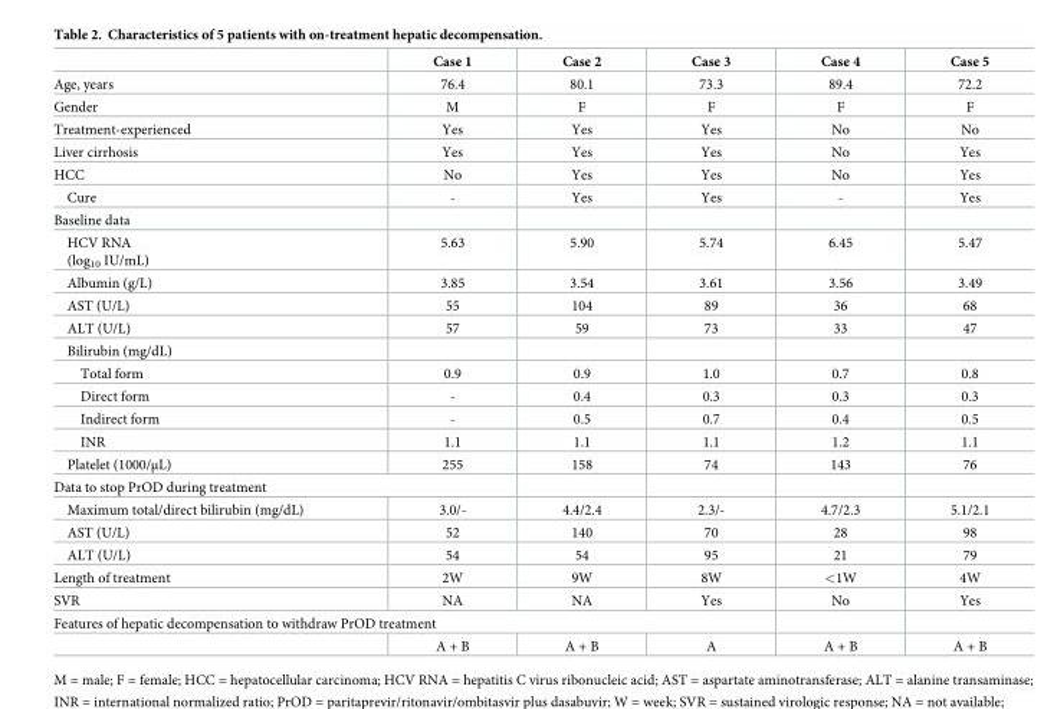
<table><thead><tr><td></td><td>Case 1</td><td>Case 2</td><td>Case 3</td><td>Case 4</td><td>Case 5</td></tr></thead><tbody><tr><td>Age, years</td><td>76.4</td><td>80.1</td><td>73.3</td><td>89.4</td><td>72.2</td></tr><tr><td>Gender</td><td>M</td><td>F</td><td>F</td><td>F</td><td>F</td></tr><tr><td>Treatment-experienced</td><td>Yes</td><td>Yes</td><td>Yes</td><td>No</td><td>No</td></tr><tr><td>Liver cirrhosis</td><td>Yes</td><td>Yes</td><td>Yes</td><td>No</td><td>Yes</td></tr><tr><td>HCC</td><td>No</td><td>Yes</td><td>Yes</td><td>No</td><td>Yes</td></tr><tr><td>Cure</td><td>-</td><td>Yes</td><td>Yes</td><td>-</td><td>Yes</td></tr><tr><td colspan="6">Baseline data</td></tr><tr><td>HCV RNA (log<sub>10</sub> IU/mL)</td><td>5.63</td><td>5.90</td><td>5.74</td><td>6.45</td><td>5.47</td></tr><tr><td>Albumin (g/L)</td><td>3.85</td><td>3.54</td><td>3.61</td><td>3.56</td><td>3.49</td></tr><tr><td>AST (U/L)</td><td>55</td><td>104</td><td>89</td><td>36</td><td>68</td></tr><tr><td>ALT (U/L)</td><td>57</td><td>59</td><td>73</td><td>33</td><td>47</td></tr><tr><td colspan="6">Bilirubin (mg/dL)</td></tr><tr><td>Total form</td><td>0.9</td><td>0.9</td><td>1.0</td><td>0.7</td><td>0.8</td></tr><tr><td>Direct form</td><td>-</td><td>0.4</td><td>0.3</td><td>0.3</td><td>0.3</td></tr><tr><td>Indirect form</td><td>-</td><td>0.5</td><td>0.7</td><td>0.4</td><td>0.5</td></tr><tr><td>INR</td><td>1.1</td><td>1.1</td><td>1.1</td><td>1.2</td><td>1.1</td></tr><tr><td>Platelet (1000/μL)</td><td>255</td><td>158</td><td>74</td><td>143</td><td>76</td></tr><tr><td colspan="6">Data to stop PrOD during treatment</td></tr><tr><td>Maximum total/direct bilirubin (mg/dL)</td><td>3.0/-</td><td>4.4/2.4</td><td>2.3/-</td><td>4.7/2.3</td><td>5.1/2.1</td></tr><tr><td>AST (U/L)</td><td>52</td><td>140</td><td>70</td><td>28</td><td>98</td></tr><tr><td>ALT (U/L)</td><td>54</td><td>54</td><td>95</td><td>21</td><td>79</td></tr><tr><td>Length of treatment</td><td>2W</td><td>9W</td><td>8W</td><td>&lt;1W</td><td>4W</td></tr><tr><td>SVR</td><td>NA</td><td>NA</td><td>Yes</td><td>No</td><td>Yes</td></tr><tr><td colspan="6">Features of hepatic decompensation to withdraw PrOD treatment</td></tr><tr><td></td><td>A + B</td><td>A + B</td><td>A</td><td>A + B</td><td>A + B</td></tr></tbody></table>